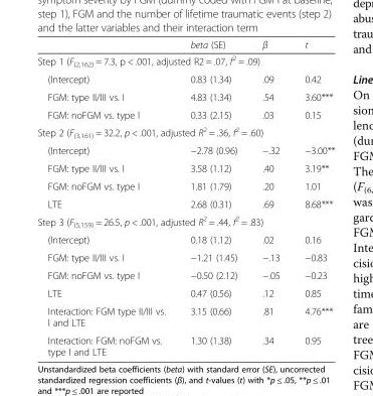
<table><thead><tr><td></td><td>beta (SE)</td><td>β</td><td>t</td></tr></thead><tbody><tr><td colspan="4">Step 1 (F<sub>(2,162)</sub> = 7.3, p &lt; .001, adjusted R2 = .07, f<sup>2</sup> = .09)</td></tr><tr><td>(Intercept)</td><td>0.83 (1.34)</td><td>.09</td><td>0.42</td></tr><tr><td>FGM: type II/III vs. I</td><td>4.83 (1.34)</td><td>.54</td><td>3.60***</td></tr><tr><td>FGM: noFGM vs. type I</td><td>0.33 (2.15)</td><td>.03</td><td>0.15</td></tr><tr><td colspan="4">Step 2 (F<sub>(3,161)</sub> = 32.2, p &lt; .001, adjusted R<sup>2</sup> = .36, f<sup>2</sup> = .60)</td></tr><tr><td>(Intercept)</td><td>−2.78 (0.96)</td><td>−.32</td><td>−3.00**</td></tr><tr><td>FGM: type II/III vs. I</td><td>3.58 (1.12)</td><td>.40</td><td>3.19**</td></tr><tr><td>FGM: noFGM vs. type I</td><td>1.81 (1.79)</td><td>.20</td><td>1.01</td></tr><tr><td>LTE</td><td>2.68 (0.31)</td><td>.69</td><td>8.68***</td></tr><tr><td colspan="4">Step 3 (F<sub>(5,159)</sub> = 26.5, p &lt; .001, adjusted R<sup>2</sup> = .44, f<sup>2</sup> = .83)</td></tr><tr><td>(Intercept)</td><td>0.18 (1.12)</td><td>.02</td><td>0.16</td></tr><tr><td>FGM: type II/III vs. I</td><td>−1.21 (1.45)</td><td>−.13</td><td>−0.83</td></tr><tr><td>FGM: noFGM vs. type I</td><td>−0.50 (2.12)</td><td>−.05</td><td>−0.23</td></tr><tr><td>LTE</td><td>0.47 (0.56)</td><td>.12</td><td>0.85</td></tr><tr><td>Interaction: FGM type II/III vs. I and LTE</td><td>3.15 (0.66)</td><td>.81</td><td>4.76***</td></tr><tr><td>Interaction: FGM: noFGM vs. type I and LTE</td><td>1.30 (1.38)</td><td>.34</td><td>0.95</td></tr></tbody></table>